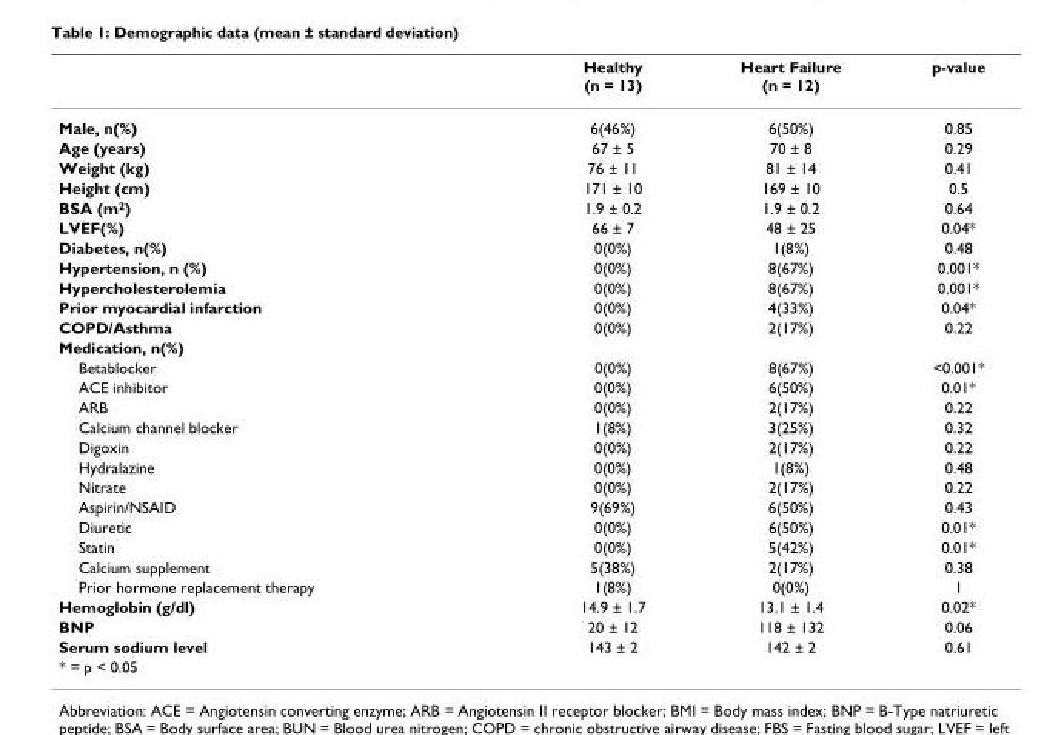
<table><thead><tr><td></td><td>Healthy (n = 13)</td><td>Heart Failure (n = 12)</td><td>p-value</td></tr></thead><tbody><tr><td>Male, n(%)</td><td>6(46%)</td><td>6(50%)</td><td>0.85</td></tr><tr><td>Age (years)</td><td>67 ± 5</td><td>70 ± 8</td><td>0.29</td></tr><tr><td>Weight (kg)</td><td>76 ± 11</td><td>81 ± 14</td><td>0.41</td></tr><tr><td>Height (cm)</td><td>171 ± 10</td><td>169 ± 10</td><td>0.5</td></tr><tr><td>BSA (m<sup>2</sup>)</td><td>1.9 ± 0.2</td><td>1.9 ± 0.2</td><td>0.64</td></tr><tr><td>LVEF(%)</td><td>66 ± 7</td><td>48 ± 25</td><td>0.04*</td></tr><tr><td>Diabetes, n(%)</td><td>0(0%)</td><td>1(8%)</td><td>0.48</td></tr><tr><td>Hypertension, n (%)</td><td>0(0%)</td><td>8(67%)</td><td>0.001*</td></tr><tr><td>Hypercholesterolemia</td><td>0(0%)</td><td>8(67%)</td><td>0.001*</td></tr><tr><td>Prior myocardial infarction</td><td>0(0%)</td><td>4(33%)</td><td>0.04*</td></tr><tr><td>COPD/Asthma</td><td>0(0%)</td><td>2(17%)</td><td>0.22</td></tr><tr><td colspan="4">Medication, n(%)</td></tr><tr><td>Betablocker</td><td>0(0%)</td><td>8(67%)</td><td>&lt;0.001*</td></tr><tr><td>ACE inhibitor</td><td>0(0%)</td><td>6(50%)</td><td>0.01*</td></tr><tr><td>ARB</td><td>0(0%)</td><td>2(17%)</td><td>0.22</td></tr><tr><td>Calcium channel blocker</td><td>1(8%)</td><td>3(25%)</td><td>0.32</td></tr><tr><td>Digoxin</td><td>0(0%)</td><td>2(17%)</td><td>0.22</td></tr><tr><td>Hydralazine</td><td>0(0%)</td><td>1(8%)</td><td>0.48</td></tr><tr><td>Nitrate</td><td>0(0%)</td><td>2(17%)</td><td>0.22</td></tr><tr><td>Aspirin/NSAID</td><td>9(69%)</td><td>6(50%)</td><td>0.43</td></tr><tr><td>Diuretic</td><td>0(0%)</td><td>6(50%)</td><td>0.01*</td></tr><tr><td>Statin</td><td>0(0%)</td><td>5(42%)</td><td>0.01*</td></tr><tr><td>Calcium supplement</td><td>5(38%)</td><td>2(17%)</td><td>0.38</td></tr><tr><td>Prior hormone replacement therapy</td><td>1(8%)</td><td>0(0%)</td><td>1</td></tr><tr><td>Hemoglobin (g/dl)</td><td>14.9 ± 1.7</td><td>13.1 ± 1.4</td><td>0.02*</td></tr><tr><td>BNP</td><td>20 ± 12</td><td>118 ± 132</td><td>0.06</td></tr><tr><td>Serum sodium level</td><td>143 ± 2</td><td>142 ± 2</td><td>0.61</td></tr><tr><td>* = p &lt; 0.05</td><td></td><td></td><td></td></tr></tbody></table>